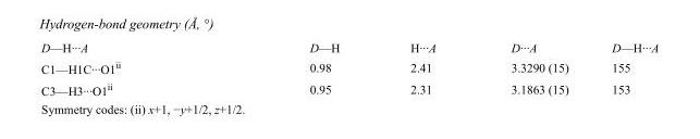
<table><tbody><tr><td>D—H···A</td><td>D—H</td><td>H···A</td><td>D···A</td><td>D—H···A</td></tr><tr><td>C1—H1C···O1<sup>ii</sup></td><td>0.98</td><td>2.41</td><td>3.3290 (15)</td><td>155</td></tr><tr><td>C3—H3···O1<sup>ii</sup></td><td>0.95</td><td>2.31</td><td>3.1863 (15)</td><td>153</td></tr></tbody></table>